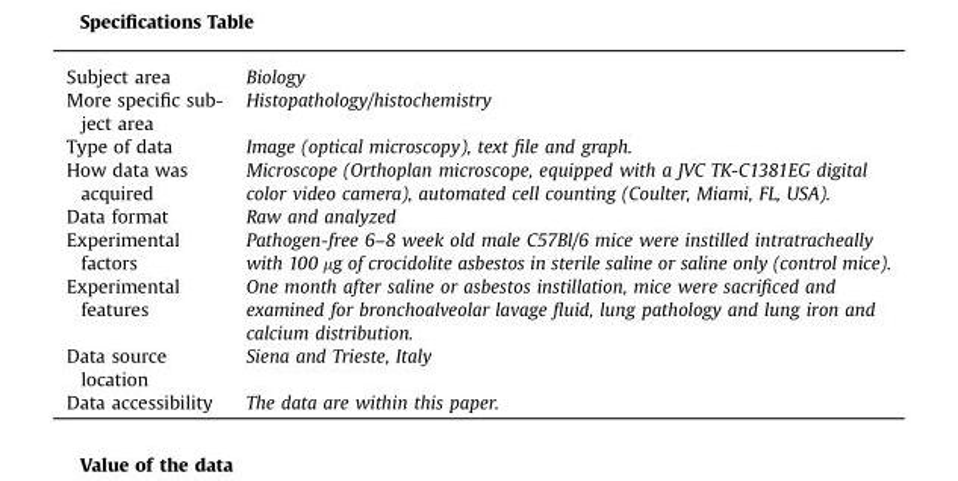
<table><tbody><tr><td>Subject area</td><td>Biology</td></tr><tr><td>More specific sub- ject area</td><td>Histopathology/histochemistry</td></tr><tr><td>Type of data</td><td>Image (optical microscopy), text file and graph.</td></tr><tr><td>How data was acquired</td><td>Microscope (Orthoplan microscope, equipped with a JVC TK-C1381EG digital color video camera), automated cell counting (Coulter, Miami, FL, USA).</td></tr><tr><td>Data format</td><td>Raw and analyzed</td></tr><tr><td>Experimental factors</td><td>Pathogen-free 6–8 week old male C57Bl/6 mice were instilled intratracheally with 100 µg of crocidolite asbestos in sterile saline or saline only (control mice).</td></tr><tr><td>Experimental features</td><td>One month after saline or asbestos instillation, mice were sacrificed and examined for bronchoalveolar lavage fluid, lung pathology and lung iron and calcium distribution.</td></tr><tr><td>Data source location</td><td>Siena and Trieste, Italy</td></tr><tr><td>Data accessibility</td><td>The data are within this paper.</td></tr></tbody></table>